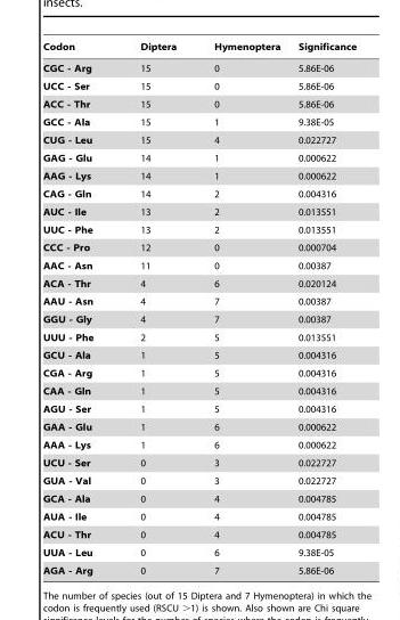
<table><thead><tr><td>Codon</td><td>Diptera</td><td>Hymenoptera</td><td>Significance</td></tr></thead><tbody><tr><td>CGC - Arg</td><td>15</td><td>0</td><td>5.86E-06</td></tr><tr><td>UCC - Ser</td><td>15</td><td>0</td><td>5.86E-06</td></tr><tr><td>ACC - Thr</td><td>15</td><td>0</td><td>5.86E-06</td></tr><tr><td>GCC - Ala</td><td>15</td><td>1</td><td>9.38E-05</td></tr><tr><td>CUG - Leu</td><td>15</td><td>4</td><td>0.022727</td></tr><tr><td>GAG - Glu</td><td>14</td><td>1</td><td>0.000622</td></tr><tr><td>AAG - Lys</td><td>14</td><td>1</td><td>0.000622</td></tr><tr><td>CAG - Gln</td><td>14</td><td>2</td><td>0.004316</td></tr><tr><td>AUC - Ile</td><td>13</td><td>2</td><td>0.013551</td></tr><tr><td>UUC - Phe</td><td>13</td><td>2</td><td>0.013551</td></tr><tr><td>CCC - Pro</td><td>12</td><td>0</td><td>0.000704</td></tr><tr><td>AAC - Asn</td><td>11</td><td>0</td><td>0.00387</td></tr><tr><td>ACA - Thr</td><td>4</td><td>6</td><td>0.020124</td></tr><tr><td>AAU - Asn</td><td>4</td><td>7</td><td>0.00387</td></tr><tr><td>GGU - Gly</td><td>4</td><td>7</td><td>0.00387</td></tr><tr><td>UUU - Phe</td><td>2</td><td>5</td><td>0.013551</td></tr><tr><td>GCU - Ala</td><td>1</td><td>5</td><td>0.004316</td></tr><tr><td>CGA - Arg</td><td>1</td><td>5</td><td>0.004316</td></tr><tr><td>CAA - Gln</td><td>1</td><td>5</td><td>0.004316</td></tr><tr><td>AGU - Ser</td><td>1</td><td>5</td><td>0.004316</td></tr><tr><td>GAA - Glu</td><td>1</td><td>6</td><td>0.000622</td></tr><tr><td>AAA - Lys</td><td>1</td><td>6</td><td>0.000622</td></tr><tr><td>UCU - Ser</td><td>0</td><td>3</td><td>0.022727</td></tr><tr><td>GUA - Val</td><td>0</td><td>3</td><td>0.022727</td></tr><tr><td>GCA - Ala</td><td>0</td><td>4</td><td>0.004785</td></tr><tr><td>AUA - Ile</td><td>0</td><td>4</td><td>0.004785</td></tr><tr><td>ACU - Thr</td><td>0</td><td>4</td><td>0.004785</td></tr><tr><td>UUA - Leu</td><td>0</td><td>6</td><td>9.38E-05</td></tr><tr><td>AGA - Arg</td><td>0</td><td>7</td><td>5.86E-06</td></tr></tbody></table>